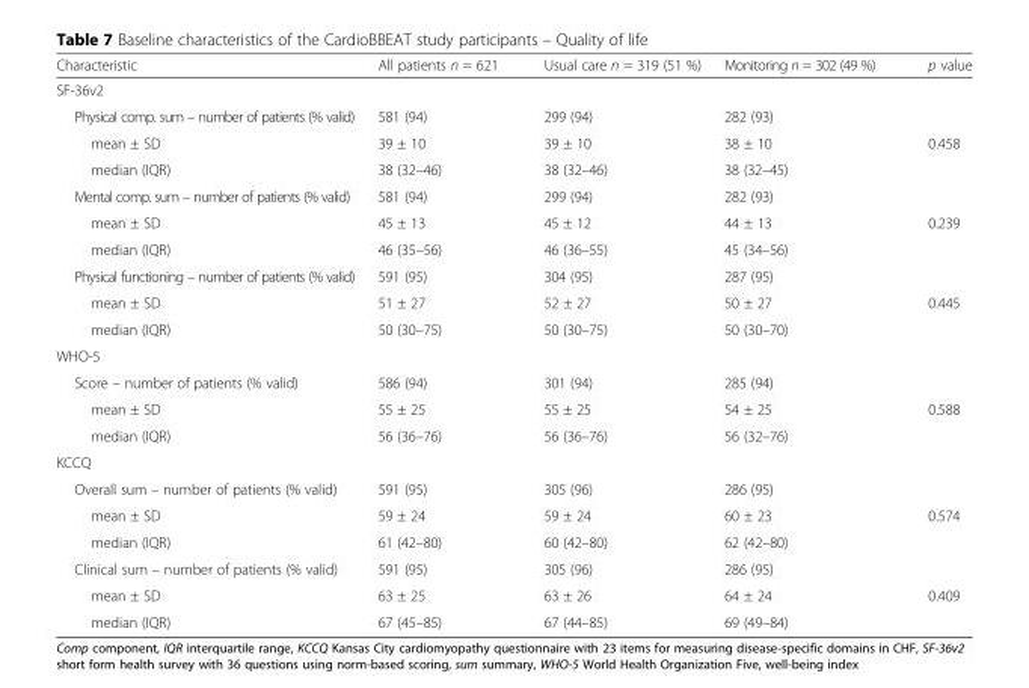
<table><thead><tr><td>Characteristic</td><td>All patients n = 621</td><td>Usual care n = 319 (51 %)</td><td>Monitoring n = 302 (49 %)</td><td>p value</td></tr></thead><tbody><tr><td colspan="5">SF-36v2</td></tr><tr><td>Physical comp. sum – number of patients (% valid)</td><td>581 (94)</td><td>299 (94)</td><td>282 (93)</td><td></td></tr><tr><td>mean ± SD</td><td>39 ± 10</td><td>39 ± 10</td><td>38 ± 10</td><td>0.458</td></tr><tr><td>median (IQR)</td><td>38 (32–46)</td><td>38 (32–46)</td><td>38 (32–45)</td><td></td></tr><tr><td>Mental comp. sum – number of patients (% valid)</td><td>581 (94)</td><td>299 (94)</td><td>282 (93)</td><td></td></tr><tr><td>mean ± SD</td><td>45 ± 13</td><td>45 ± 12</td><td>44 ± 13</td><td>0.239</td></tr><tr><td>median (IQR)</td><td>46 (35–56)</td><td>46 (36–55)</td><td>45 (34–56)</td><td></td></tr><tr><td>Physical functioning – number of patients (% valid)</td><td>591 (95)</td><td>304 (95)</td><td>287 (95)</td><td></td></tr><tr><td>mean ± SD</td><td>51 ± 27</td><td>52 ± 27</td><td>50 ± 27</td><td>0.445</td></tr><tr><td>median (IQR)</td><td>50 (30–75)</td><td>50 (30–75)</td><td>50 (30–70)</td><td></td></tr><tr><td colspan="5">WHO-5</td></tr><tr><td>Score – number of patients (% valid)</td><td>586 (94)</td><td>301 (94)</td><td>285 (94)</td><td></td></tr><tr><td>mean ± SD</td><td>55 ± 25</td><td>55 ± 25</td><td>54 ± 25</td><td>0.588</td></tr><tr><td>median (IQR)</td><td>56 (36–76)</td><td>56 (36–76)</td><td>56 (32–76)</td><td></td></tr><tr><td colspan="5">KCCQ</td></tr><tr><td>Overall sum – number of patients (% valid)</td><td>591 (95)</td><td>305 (96)</td><td>286 (95)</td><td></td></tr><tr><td>mean ± SD</td><td>59 ± 24</td><td>59 ± 24</td><td>60 ± 23</td><td>0.574</td></tr><tr><td>median (IQR)</td><td>61 (42–80)</td><td>60 (42–80)</td><td>62 (42–80)</td><td></td></tr><tr><td>Clinical sum – number of patients (% valid)</td><td>591 (95)</td><td>305 (96)</td><td>286 (95)</td><td></td></tr><tr><td>mean ± SD</td><td>63 ± 25</td><td>63 ± 26</td><td>64 ± 24</td><td>0.409</td></tr><tr><td>median (IQR)</td><td>67 (45–85)</td><td>67 (44–85)</td><td>69 (49–84)</td><td></td></tr></tbody></table>